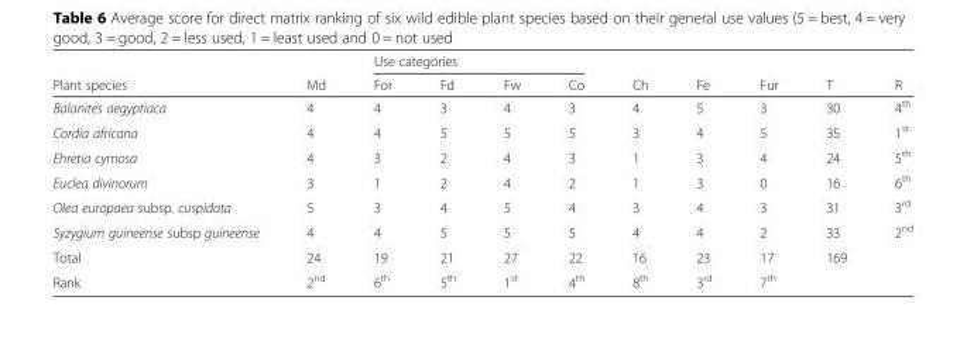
<table><thead><tr><td rowspan="2">Plant species</td><td rowspan="2">Md</td><td colspan="4">Use categories</td><td rowspan="2">Ch</td><td rowspan="2">Fe</td><td rowspan="2">Fur</td><td rowspan="2">T</td><td rowspan="2">R</td></tr><tr><td>For</td><td>Fd</td><td>Fw</td><td>Co</td></tr></thead><tbody><tr><td>Balanites aegyptiaca</td><td>4</td><td>4</td><td>3</td><td>4</td><td>3</td><td>4</td><td>5</td><td>3</td><td>30</td><td>4<sup>th</sup></td></tr><tr><td>Cordia africana</td><td>4</td><td>4</td><td>5</td><td>5</td><td>5</td><td>3</td><td>4</td><td>5</td><td>35</td><td>1<sup>st</sup></td></tr><tr><td>Ehretia cymosa</td><td>4</td><td>3</td><td>2</td><td>4</td><td>3</td><td>1</td><td>3</td><td>4</td><td>24</td><td>5<sup>th</sup></td></tr><tr><td>Euclea divinorum</td><td>3</td><td>1</td><td>2</td><td>4</td><td>2</td><td>1</td><td>3</td><td>0</td><td>16</td><td>6<sup>th</sup></td></tr><tr><td>Olea europaea subsp. cuspidata</td><td>5</td><td>3</td><td>4</td><td>5</td><td>4</td><td>3</td><td>4</td><td>3</td><td>31</td><td>3<sup>rd</sup></td></tr><tr><td>Syzygium guineense subsp guineense</td><td>4</td><td>4</td><td>5</td><td>5</td><td>5</td><td>4</td><td>4</td><td>2</td><td>33</td><td>2<sup>nd</sup></td></tr><tr><td>Total</td><td>24</td><td>19</td><td>21</td><td>27</td><td>22</td><td>16</td><td>23</td><td>17</td><td>169</td><td></td></tr><tr><td>Rank</td><td>2<sup>nd</sup></td><td>6<sup>th</sup></td><td>5<sup>th</sup></td><td>1<sup>st</sup></td><td>4<sup>th</sup></td><td>8<sup>th</sup></td><td>3<sup>rd</sup></td><td>7<sup>th</sup></td><td></td><td></td></tr></tbody></table>